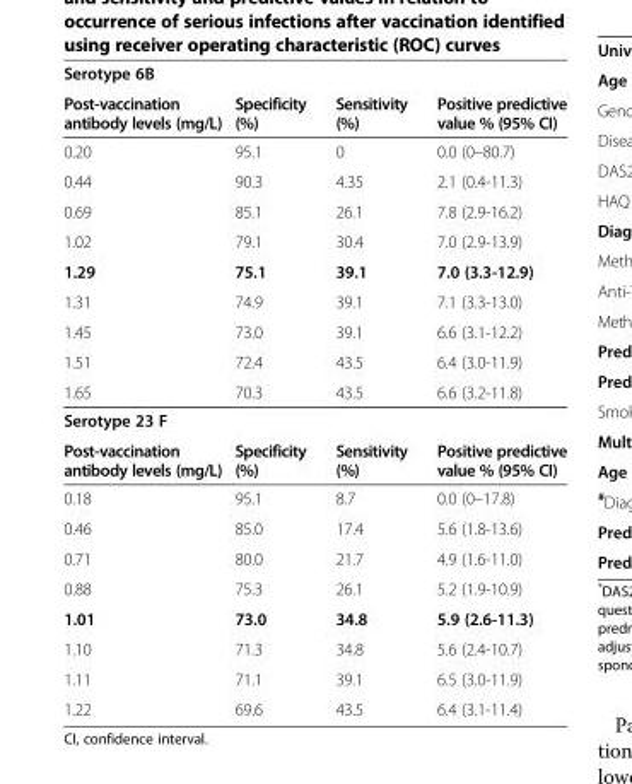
<table><tbody><tr><td colspan="4">Serotype 6B</td></tr><tr><td>Post-vaccination antibody levels (mg/L)</td><td>Specificity (%)</td><td>Sensitivity (%)</td><td>Positive predictive value % (95% CI)</td></tr><tr><td>0.20</td><td>95.1</td><td>0</td><td>0.0 (0–80.7)</td></tr><tr><td>0.44</td><td>90.3</td><td>4.35</td><td>2.1 (0.4-11.3)</td></tr><tr><td>0.69</td><td>85.1</td><td>26.1</td><td>7.8 (2.9-16.2)</td></tr><tr><td>1.02</td><td>79.1</td><td>30.4</td><td>7.0 (2.9-13.9)</td></tr><tr><td>1.29</td><td>75.1</td><td>39.1</td><td>7.0 (3.3-12.9)</td></tr><tr><td>1.31</td><td>74.9</td><td>39.1</td><td>7.1 (3.3-13.0)</td></tr><tr><td>1.45</td><td>73.0</td><td>39.1</td><td>6.6 (3.1-12.2)</td></tr><tr><td>1.51</td><td>72.4</td><td>43.5</td><td>6.4 (3.0-11.9)</td></tr><tr><td>1.65</td><td>70.3</td><td>43.5</td><td>6.6 (3.2-11.8)</td></tr><tr><td colspan="4">Serotype 23 F</td></tr><tr><td>Post-vaccination antibody levels (mg/L)</td><td>Specificity (%)</td><td>Sensitivity (%)</td><td>Positive predictive value % (95% CI)</td></tr><tr><td>0.18</td><td>95.1</td><td>8.7</td><td>0.0 (0–17.8)</td></tr><tr><td>0.46</td><td>85.0</td><td>17.4</td><td>5.6 (1.8-13.6)</td></tr><tr><td>0.71</td><td>80.0</td><td>21.7</td><td>4.9 (1.6-11.0)</td></tr><tr><td>0.88</td><td>75.3</td><td>26.1</td><td>5.2 (1.9-10.9)</td></tr><tr><td>1.01</td><td>73.0</td><td>34.8</td><td>5.9 (2.6-11.3)</td></tr><tr><td>1.10</td><td>71.3</td><td>34.8</td><td>5.6 (2.4-10.7)</td></tr><tr><td>1.11</td><td>71.1</td><td>39.1</td><td>6.5 (3.0-11.9)</td></tr><tr><td>1.22</td><td>69.6</td><td>43.5</td><td>6.4 (3.1-11.4)</td></tr></tbody></table>